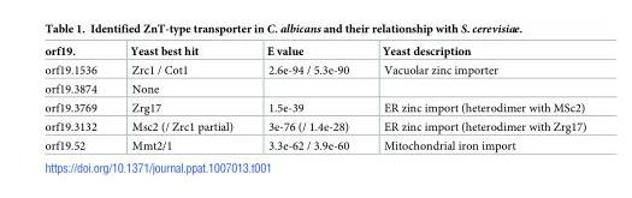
<table><thead><tr><td>orf19.</td><td>Yeast best hit</td><td>E value</td><td>Yeast description</td></tr></thead><tbody><tr><td>orf19.1536</td><td>Zrc1 / Cot1</td><td>2.6e-94 / 5.3e-90</td><td>Vacuolar zinc importer</td></tr><tr><td>orf19.3874</td><td>None</td><td></td><td></td></tr><tr><td>orf19.3769</td><td>Zrg17</td><td>1.5e-39</td><td>ER zinc import (heterodimer with MSc2)</td></tr><tr><td>orf19.3132</td><td>Msc2 (/ Zrc1 partial)</td><td>3e-76 (/ 1.4e-28)</td><td>ER zinc import (heterodimer with Zrg17)</td></tr><tr><td>orf19.52</td><td>Mmt2/1</td><td>3.3e-62 / 3.9e-60</td><td>Mitochondrial iron import</td></tr></tbody></table>